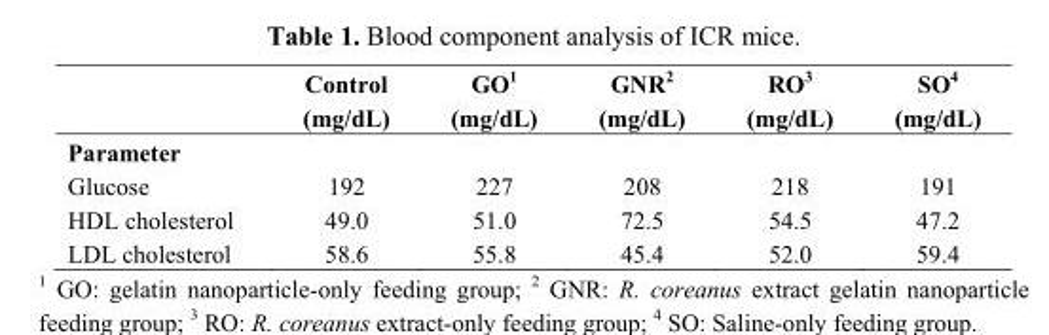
<table><thead><tr><td></td><td>Control (mg/dL)</td><td>GO<sup>1</sup> (mg/dL)</td><td>GNR<sup>2</sup> (mg/dL)</td><td>RO<sup>3</sup> (mg/dL)</td><td>SO<sup>4</sup> (mg/dL)</td></tr></thead><tbody><tr><td colspan="6">Parameter</td></tr><tr><td>Glucose</td><td>192</td><td>227</td><td>208</td><td>218</td><td>191</td></tr><tr><td>HDL cholesterol</td><td>49.0</td><td>51.0</td><td>72.5</td><td>54.5</td><td>47.2</td></tr><tr><td>LDL cholesterol</td><td>58.6</td><td>55.8</td><td>45.4</td><td>52.0</td><td>59.4</td></tr></tbody></table>